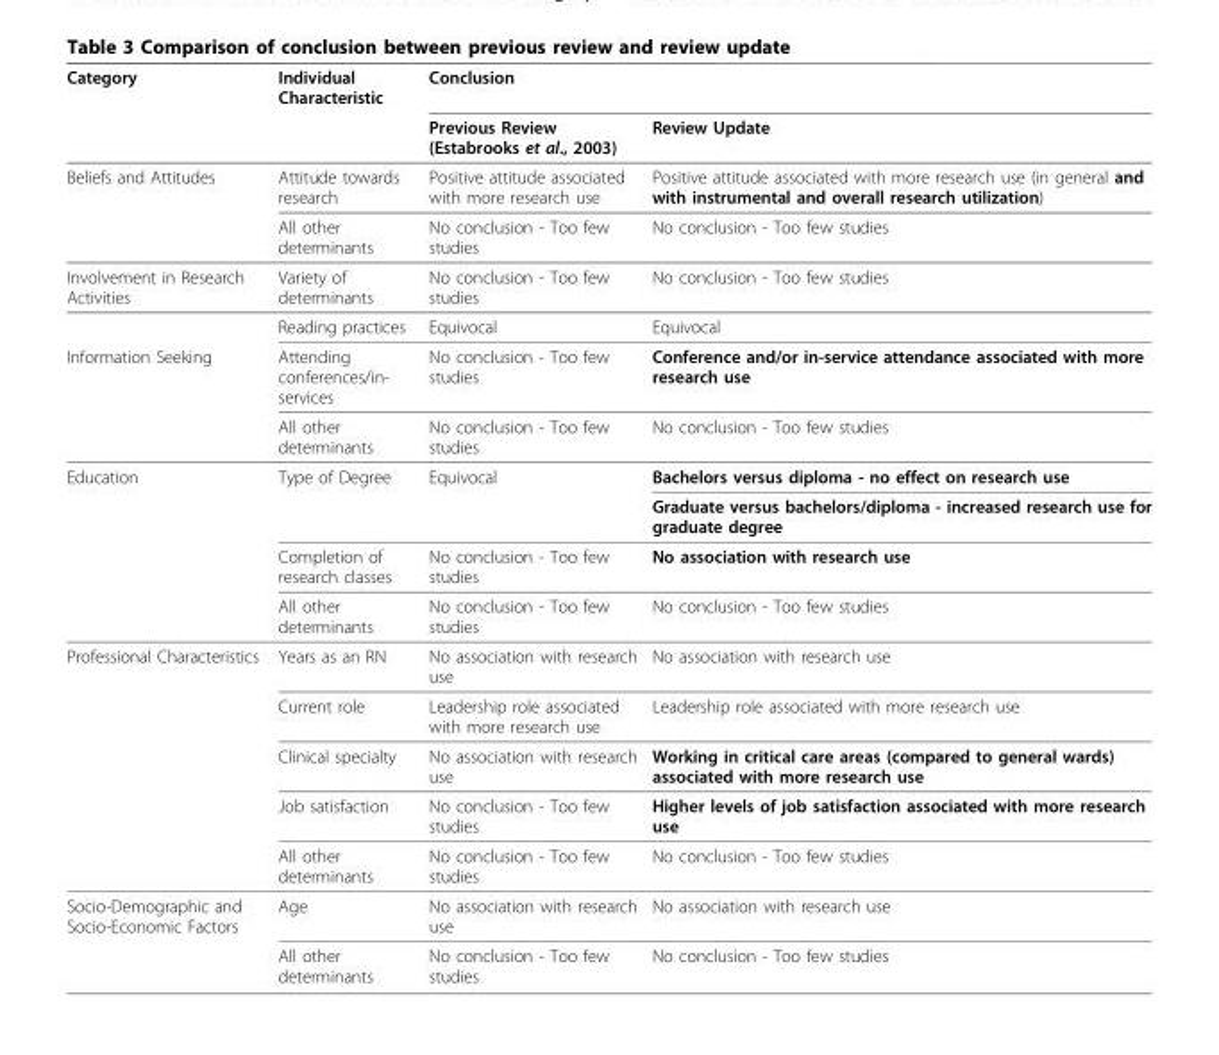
<table><thead><tr><td rowspan="2">Category</td><td rowspan="2">Individual Characteristic</td><td colspan="2">Conclusion</td></tr><tr><td>Previous Review (Estabrooks et al., 2003)</td><td>Review Update</td></tr></thead><tbody><tr><td rowspan="2">Beliefs and Attitudes</td><td>Attitude towards research</td><td>Positive attitude associated with more research use</td><td>Positive attitude associated with more research use (in general and with instrumental and overall research utilization)</td></tr><tr><td>All other determinants</td><td>No conclusion - Too few studies</td><td>No conclusion - Too few studies</td></tr><tr><td rowspan="2">Involvement in Research Activities</td><td>Variety of determinants</td><td>No conclusion - Too few studies</td><td>No conclusion - Too few studies</td></tr><tr><td>Reading practices</td><td>Equivocal</td><td>Equivocal</td></tr><tr><td rowspan="2">Information Seeking</td><td>Attending conferences/in- services</td><td>No conclusion - Too few studies</td><td>Conference and/or in-service attendance associated with more research use</td></tr><tr><td>All other determinants</td><td>No conclusion - Too few studies</td><td>No conclusion - Too few studies</td></tr><tr><td rowspan="4">Education</td><td>Type of Degree</td><td>Equivocal</td><td>Bachelors versus diploma - no effect on research use</td></tr><tr><td></td><td></td><td>Graduate versus bachelors/diploma - increased research use for graduate degree</td></tr><tr><td>Completion of research classes</td><td>No conclusion - Too few studies</td><td>No association with research use</td></tr><tr><td>All other determinants</td><td>No conclusion - Too few studies</td><td>No conclusion - Too few studies</td></tr><tr><td rowspan="5">Professional Characteristics</td><td>Years as an RN</td><td>No association with research use</td><td>No association with research use</td></tr><tr><td>Current role</td><td>Leadership role associated with more research use</td><td>Leadership role associated with more research use</td></tr><tr><td>Clinical specialty</td><td>No association with research use</td><td>Working in critical care areas (compared to general wards) associated with more research use</td></tr><tr><td>Job satisfaction</td><td>No conclusion - Too few studies</td><td>Higher levels of job satisfaction associated with more research use</td></tr><tr><td>All other determinants</td><td>No conclusion - Too few studies</td><td>No conclusion - Too few studies</td></tr><tr><td rowspan="2">Socio-Demographic and Socio-Economic Factors</td><td>Age</td><td>No association with research use</td><td>No association with research use</td></tr><tr><td>All other determinants</td><td>No conclusion - Too few studies</td><td>No conclusion - Too few studies</td></tr></tbody></table>